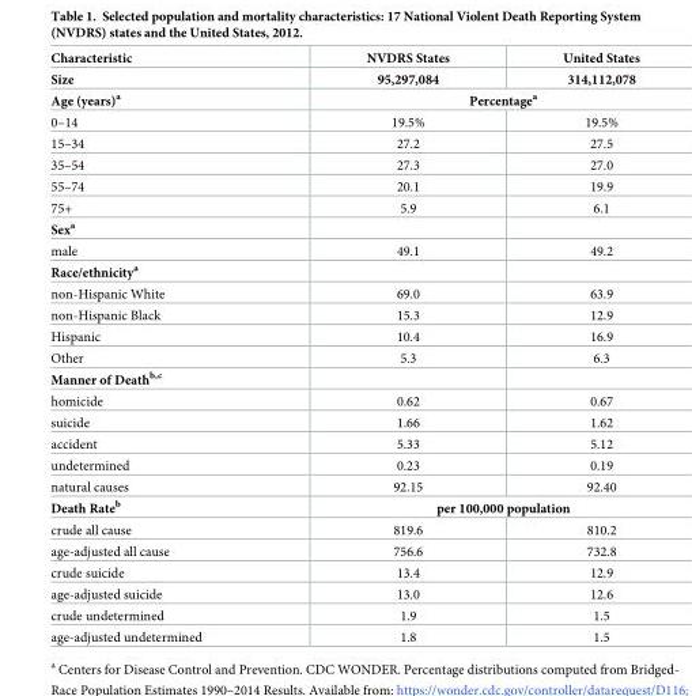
<table><thead><tr><td rowspan="2">Characteristic Size</td><td rowspan="2">NVDRS States 95,297,084</td><td rowspan="2">United States 314,112,078</td></tr><tr></tr></thead><tbody><tr><td>Age (years)<sup>a</sup></td><td colspan="2">Percentage<sup>a</sup></td></tr><tr><td>0–14</td><td>19.5%</td><td>19.5%</td></tr><tr><td>15–34</td><td>27.2</td><td>27.5</td></tr><tr><td>35–54</td><td>27.3</td><td>27.0</td></tr><tr><td>55–74</td><td>20.1</td><td>19.9</td></tr><tr><td>75+</td><td>5.9</td><td>6.1</td></tr><tr><td colspan="3">Sex<sup>a</sup></td></tr><tr><td>male</td><td>49.1</td><td>49.2</td></tr><tr><td colspan="3">Race/ethnicity<sup>a</sup></td></tr><tr><td>non-Hispanic White</td><td>69.0</td><td>63.9</td></tr><tr><td>non-Hispanic Black</td><td>15.3</td><td>12.9</td></tr><tr><td>Hispanic</td><td>10.4</td><td>16.9</td></tr><tr><td>Other</td><td>5.3</td><td>6.3</td></tr><tr><td colspan="3">Manner of Death<sup>b,c</sup></td></tr><tr><td>homicide</td><td>0.62</td><td>0.67</td></tr><tr><td>suicide</td><td>1.66</td><td>1.62</td></tr><tr><td>accident</td><td>5.33</td><td>5.12</td></tr><tr><td>undetermined</td><td>0.23</td><td>0.19</td></tr><tr><td>natural causes</td><td>92.15</td><td>92.40</td></tr><tr><td>Death Rate<sup>b</sup></td><td colspan="2">per 100,000 population</td></tr><tr><td>crude all cause</td><td>819.6</td><td>810.2</td></tr><tr><td>age-adjusted all cause</td><td>756.6</td><td>732.8</td></tr><tr><td>crude suicide</td><td>13.4</td><td>12.9</td></tr><tr><td>age-adjusted suicide</td><td>13.0</td><td>12.6</td></tr><tr><td>crude undetermined</td><td>1.9</td><td>1.5</td></tr><tr><td>age-adjusted undetermined</td><td>1.8</td><td>1.5</td></tr></tbody></table>